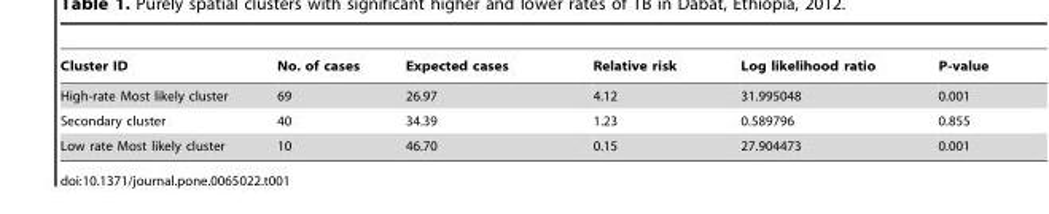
<table><thead><tr><td>Cluster ID</td><td>No. of cases</td><td>Expected cases</td><td>Relative risk</td><td>Log likelihood ratio</td><td>P-value</td></tr></thead><tbody><tr><td>High-rate Most likely cluster</td><td>69</td><td>26.97</td><td>4.12</td><td>31.995048</td><td>0.001</td></tr><tr><td>Secondary cluster</td><td>40</td><td>34.39</td><td>1.23</td><td>0.589796</td><td>0.855</td></tr><tr><td>Low rate Most likely cluster</td><td>10</td><td>46.70</td><td>0.15</td><td>27.904473</td><td>0.001</td></tr></tbody></table>